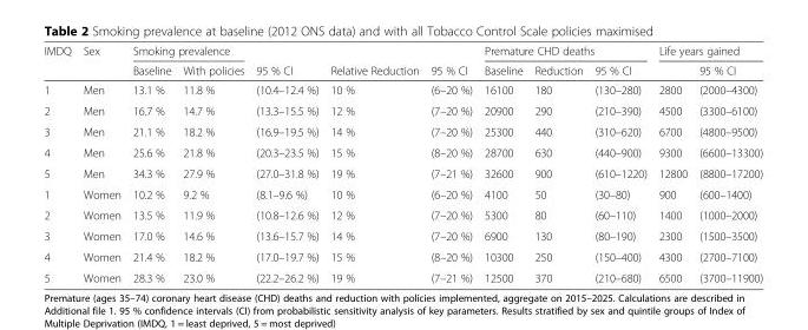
<table><thead><tr><td rowspan="2">IMDQ</td><td rowspan="2">Sex</td><td colspan="2">Smoking prevalence</td><td rowspan="2">95 % CI</td><td rowspan="2">Relative Reduction</td><td rowspan="2">95 % CI</td><td colspan="3">Premature CHD deaths</td><td colspan="2">Life years gained</td></tr><tr><td>Baseline</td><td>With policies</td><td>Baseline</td><td>Reduction</td><td>95 % CI</td><td></td><td>95 % CI</td></tr></thead><tbody><tr><td>1</td><td>Men</td><td>13.1 %</td><td>11.8 %</td><td>(10.4–12.4 %)</td><td>10 %</td><td>(6–20 %)</td><td>16100</td><td>180</td><td>(130–280)</td><td>2800</td><td>(2000–4300)</td></tr><tr><td>2</td><td>Men</td><td>16.7 %</td><td>14.7 %</td><td>(13.3–15.5 %)</td><td>12 %</td><td>(7–20 %)</td><td>20900</td><td>290</td><td>(210–390)</td><td>4500</td><td>(3300–6100)</td></tr><tr><td>3</td><td>Men</td><td>21.1 %</td><td>18.2 %</td><td>(16.9–19.5 %)</td><td>14 %</td><td>(7–20 %)</td><td>25300</td><td>440</td><td>(310–620)</td><td>6700</td><td>(4800–9500)</td></tr><tr><td>4</td><td>Men</td><td>25.6 %</td><td>21.8 %</td><td>(20.3–23.5 %)</td><td>15 %</td><td>(8–20 %)</td><td>28700</td><td>630</td><td>(440–900)</td><td>9300</td><td>(6600–13300)</td></tr><tr><td>5</td><td>Men</td><td>34.3 %</td><td>27.9 %</td><td>(27.0–31.8 %)</td><td>19 %</td><td>(7–21 %)</td><td>32600</td><td>900</td><td>(610–1220)</td><td>12800</td><td>(8800–17200)</td></tr><tr><td>1</td><td>Women</td><td>10.2 %</td><td>9.2 %</td><td>(8.1–9.6 %)</td><td>10 %</td><td>(6–20 %)</td><td>4100</td><td>50</td><td>(30–80)</td><td>900</td><td>(600–1400)</td></tr><tr><td>2</td><td>Women</td><td>13.5 %</td><td>11.9 %</td><td>(10.8–12.6 %)</td><td>12 %</td><td>(7–20 %)</td><td>5300</td><td>80</td><td>(60–110)</td><td>1400</td><td>(1000–2000)</td></tr><tr><td>3</td><td>Women</td><td>17.0 %</td><td>14.6 %</td><td>(13.6–15.7 %)</td><td>14 %</td><td>(7–20 %)</td><td>6900</td><td>130</td><td>(80–190)</td><td>2300</td><td>(1500–3500)</td></tr><tr><td>4</td><td>Women</td><td>21.4 %</td><td>18.2 %</td><td>(17.0–19.7 %)</td><td>15 %</td><td>(8–20 %)</td><td>10300</td><td>250</td><td>(150–400)</td><td>4300</td><td>(2700–7100)</td></tr><tr><td>5</td><td>Women</td><td>28.3 %</td><td>23.0 %</td><td>(22.2–26.2 %)</td><td>19 %</td><td>(7–21 %)</td><td>12500</td><td>370</td><td>(210–680)</td><td>6500</td><td>(3700–11900)</td></tr></tbody></table>